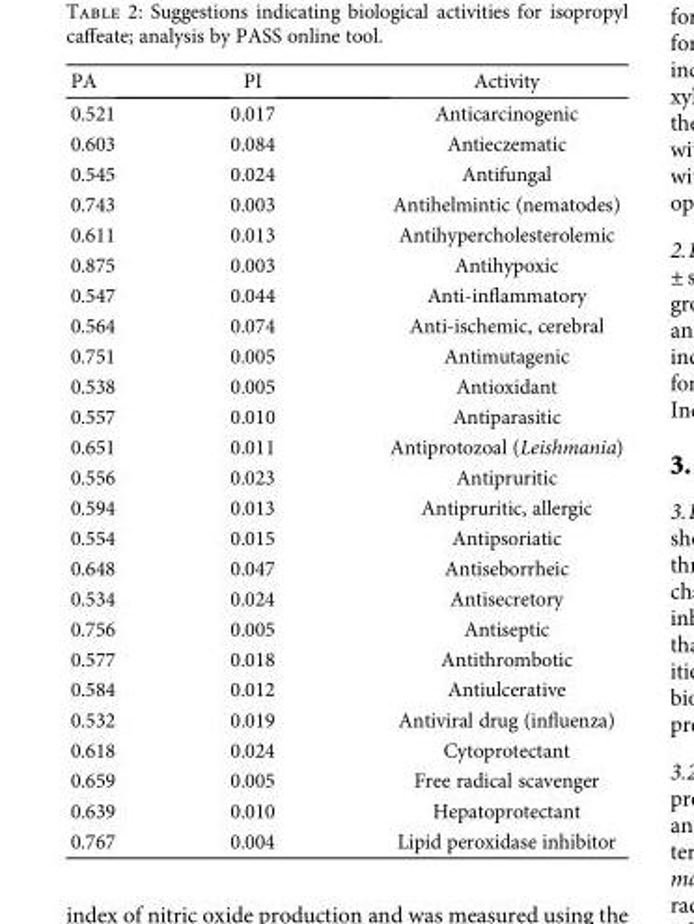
<table><thead><tr><td>PA</td><td>PI</td><td>Activity</td></tr></thead><tbody><tr><td>0.521</td><td>0.017</td><td>Anticarcinogenic</td></tr><tr><td>0.603</td><td>0.084</td><td>Antieczematic</td></tr><tr><td>0.545</td><td>0.024</td><td>Antifungal</td></tr><tr><td>0.743</td><td>0.003</td><td>Antihelmintic (nematodes)</td></tr><tr><td>0.611</td><td>0.013</td><td>Antihypercholesterolemic</td></tr><tr><td>0.875</td><td>0.003</td><td>Antihypoxic</td></tr><tr><td>0.547</td><td>0.044</td><td>Anti-inflammatory</td></tr><tr><td>0.564</td><td>0.074</td><td>Anti-ischemic, cerebral</td></tr><tr><td>0.751</td><td>0.005</td><td>Antimutagenic</td></tr><tr><td>0.538</td><td>0.005</td><td>Antioxidant</td></tr><tr><td>0.557</td><td>0.010</td><td>Antiparasitic</td></tr><tr><td>0.651</td><td>0.011</td><td>Antiprotozoal (Leishmania)</td></tr><tr><td>0.556</td><td>0.023</td><td>Antipruritic</td></tr><tr><td>0.594</td><td>0.013</td><td>Antipruritic, allergic</td></tr><tr><td>0.554</td><td>0.015</td><td>Antipsoriatic</td></tr><tr><td>0.648</td><td>0.047</td><td>Antiseborrheic</td></tr><tr><td>0.534</td><td>0.024</td><td>Antisecretory</td></tr><tr><td>0.756</td><td>0.005</td><td>Antiseptic</td></tr><tr><td>0.577</td><td>0.018</td><td>Antithrombotic</td></tr><tr><td>0.584</td><td>0.012</td><td>Antiulcerative</td></tr><tr><td>0.532</td><td>0.019</td><td>Antiviral drug (influenza)</td></tr><tr><td>0.618</td><td>0.024</td><td>Cytoprotectant</td></tr><tr><td>0.659</td><td>0.005</td><td>Free radical scavenger</td></tr><tr><td>0.639</td><td>0.010</td><td>Hepatoprotectant</td></tr><tr><td>0.767</td><td>0.004</td><td>Lipid peroxidase inhibitor</td></tr></tbody></table>